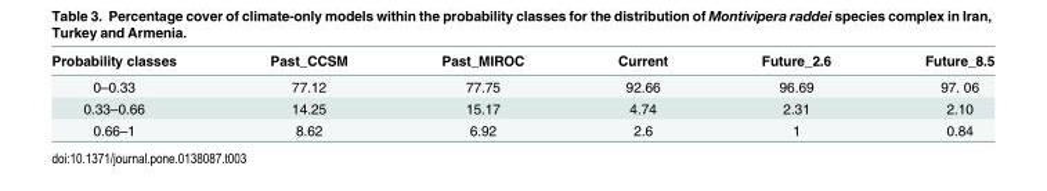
<table><thead><tr><td>Probability classes</td><td>Past_CCSM</td><td>Past_MIROC</td><td>Current</td><td>Future_2.6</td><td>Future_8.5</td></tr></thead><tbody><tr><td>0–0.33</td><td>77.12</td><td>77.75</td><td>92.66</td><td>96.69</td><td>97. 06</td></tr><tr><td>0.33–0.66</td><td>14.25</td><td>15.17</td><td>4.74</td><td>2.31</td><td>2.10</td></tr><tr><td>0.66–1</td><td>8.62</td><td>6.92</td><td>2.6</td><td>1</td><td>0.84</td></tr></tbody></table>